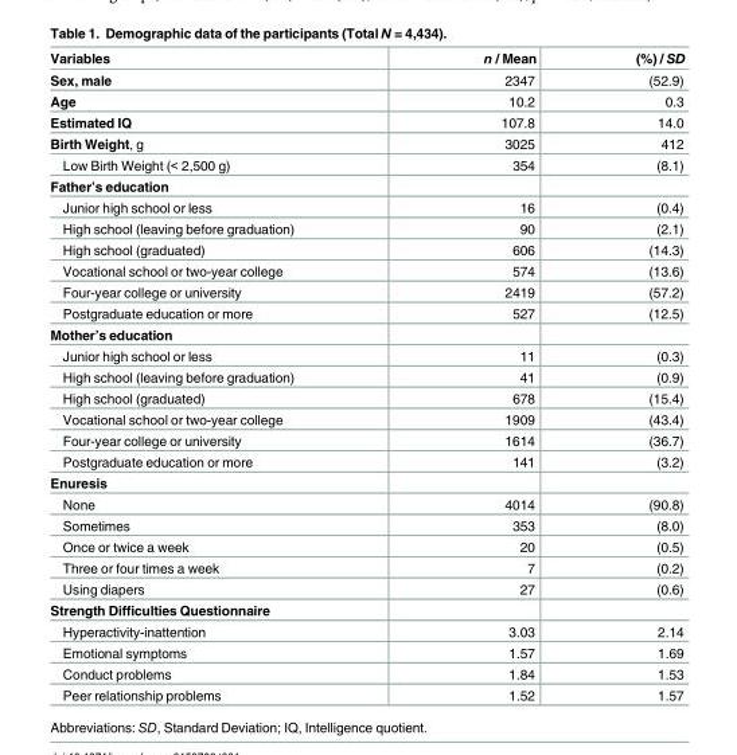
<table><thead><tr><td>Variables</td><td>n / Mean</td><td>(%) / SD</td></tr></thead><tbody><tr><td>Sex, male</td><td>2347</td><td>(52.9)</td></tr><tr><td>Age</td><td>10.2</td><td>0.3</td></tr><tr><td>Estimated IQ</td><td>107.8</td><td>14.0</td></tr><tr><td>Birth Weight, g</td><td>3025</td><td>412</td></tr><tr><td>Low Birth Weight (&lt; 2,500 g)</td><td>354</td><td>(8.1)</td></tr><tr><td colspan="3">Father’s education</td></tr><tr><td>Junior high school or less</td><td>16</td><td>(0.4)</td></tr><tr><td>High school (leaving before graduation)</td><td>90</td><td>(2.1)</td></tr><tr><td>High school (graduated)</td><td>606</td><td>(14.3)</td></tr><tr><td>Vocational school or two-year college</td><td>574</td><td>(13.6)</td></tr><tr><td>Four-year college or university</td><td>2419</td><td>(57.2)</td></tr><tr><td>Postgraduate education or more</td><td>527</td><td>(12.5)</td></tr><tr><td colspan="3">Mother’s education</td></tr><tr><td>Junior high school or less</td><td>11</td><td>(0.3)</td></tr><tr><td>High school (leaving before graduation)</td><td>41</td><td>(0.9)</td></tr><tr><td>High school (graduated)</td><td>678</td><td>(15.4)</td></tr><tr><td>Vocational school or two-year college</td><td>1909</td><td>(43.4)</td></tr><tr><td>Four-year college or university</td><td>1614</td><td>(36.7)</td></tr><tr><td>Postgraduate education or more</td><td>141</td><td>(3.2)</td></tr><tr><td colspan="3">Enuresis</td></tr><tr><td>None</td><td>4014</td><td>(90.8)</td></tr><tr><td>Sometimes</td><td>353</td><td>(8.0)</td></tr><tr><td>Once or twice a week</td><td>20</td><td>(0.5)</td></tr><tr><td>Three or four times a week</td><td>7</td><td>(0.2)</td></tr><tr><td>Using diapers</td><td>27</td><td>(0.6)</td></tr><tr><td colspan="3">Strength Difficulties Questionnaire</td></tr><tr><td>Hyperactivity-inattention</td><td>3.03</td><td>2.14</td></tr><tr><td>Emotional symptoms</td><td>1.57</td><td>1.69</td></tr><tr><td>Conduct problems</td><td>1.84</td><td>1.53</td></tr><tr><td>Peer relationship problems</td><td>1.52</td><td>1.57</td></tr></tbody></table>